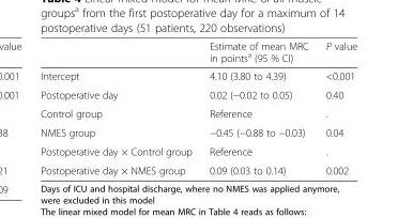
<table><thead><tr><td></td><td>Estimate of mean MRC in points<sup>a</sup> (95 % CI)</td><td>P value</td></tr></thead><tbody><tr><td>Intercept</td><td>4.10 (3.80 to 4.39)</td><td>&lt;0.001</td></tr><tr><td>Postoperative day</td><td>0.02 (−0.02 to 0.05)</td><td>0.40</td></tr><tr><td>Control group</td><td>Reference</td><td>.</td></tr><tr><td>NMES group</td><td>−0.45 (−0.88 to −0.03)</td><td>0.04</td></tr><tr><td>Postoperative day × Control group</td><td>Reference</td><td>.</td></tr><tr><td>Postoperative day × NMES group</td><td>0.09 (0.03 to 0.14)</td><td>0.002</td></tr></tbody></table>